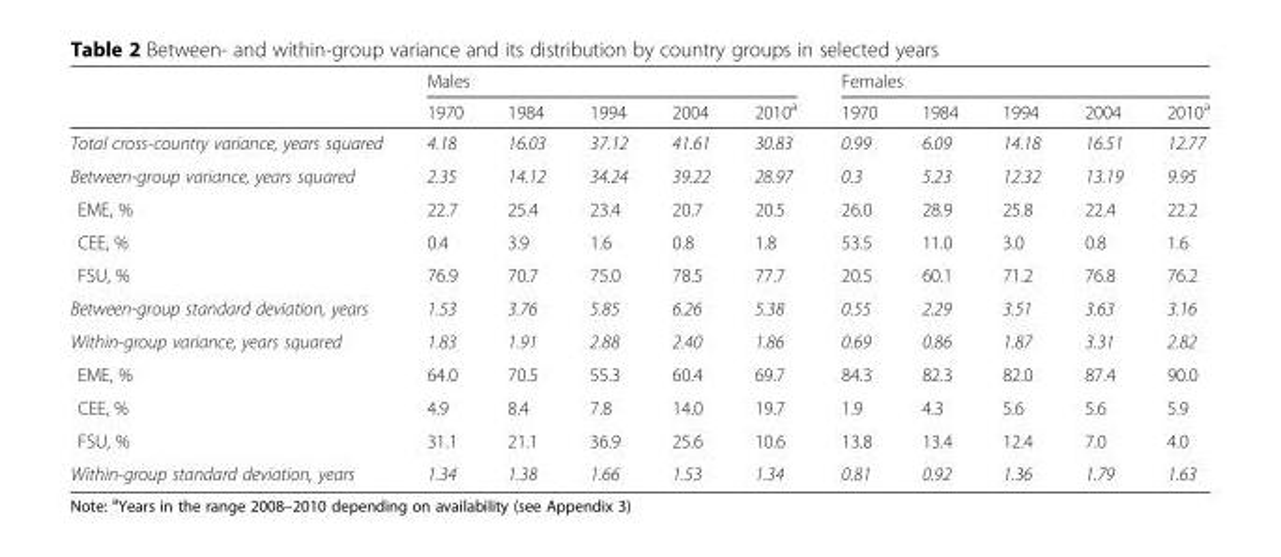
<table><thead><tr><td rowspan="2"></td><td colspan="5">Males</td><td colspan="5">Females</td></tr><tr><td>1970</td><td>1984</td><td>1994</td><td>2004</td><td>2010<sup>a</sup></td><td>1970</td><td>1984</td><td>1994</td><td>2004</td><td>2010<sup>a</sup></td></tr></thead><tbody><tr><td>Total cross-country variance, years squared</td><td>4.18</td><td>16.03</td><td>37.12</td><td>41.61</td><td>30.83</td><td>0.99</td><td>6.09</td><td>14.18</td><td>16.51</td><td>12.77</td></tr><tr><td>Between-group variance, years squared</td><td>2.35</td><td>14.12</td><td>34.24</td><td>39.22</td><td>28.97</td><td>0.3</td><td>5.23</td><td>12.32</td><td>13.19</td><td>9.95</td></tr><tr><td>EME, %</td><td>22.7</td><td>25.4</td><td>23.4</td><td>20.7</td><td>20.5</td><td>26.0</td><td>28.9</td><td>25.8</td><td>22.4</td><td>22.2</td></tr><tr><td>CEE, %</td><td>0.4</td><td>3.9</td><td>1.6</td><td>0.8</td><td>1.8</td><td>53.5</td><td>11.0</td><td>3.0</td><td>0.8</td><td>1.6</td></tr><tr><td>FSU, %</td><td>76.9</td><td>70.7</td><td>75.0</td><td>78.5</td><td>77.7</td><td>20.5</td><td>60.1</td><td>71.2</td><td>76.8</td><td>76.2</td></tr><tr><td>Between-group standard deviation, years</td><td>1.53</td><td>3.76</td><td>5.85</td><td>6.26</td><td>5.38</td><td>0.55</td><td>2.29</td><td>3.51</td><td>3.63</td><td>3.16</td></tr><tr><td>Within-group variance, years squared</td><td>1.83</td><td>1.91</td><td>2.88</td><td>2.40</td><td>1.86</td><td>0.69</td><td>0.86</td><td>1.87</td><td>3.31</td><td>2.82</td></tr><tr><td>EME, %</td><td>64.0</td><td>70.5</td><td>55.3</td><td>60.4</td><td>69.7</td><td>84.3</td><td>82.3</td><td>82.0</td><td>87.4</td><td>90.0</td></tr><tr><td>CEE, %</td><td>4.9</td><td>8.4</td><td>7.8</td><td>14.0</td><td>19.7</td><td>1.9</td><td>4.3</td><td>5.6</td><td>5.6</td><td>5.9</td></tr><tr><td>FSU, %</td><td>31.1</td><td>21.1</td><td>36.9</td><td>25.6</td><td>10.6</td><td>13.8</td><td>13.4</td><td>12.4</td><td>7.0</td><td>4.0</td></tr><tr><td>Within-group standard deviation, years</td><td>1.34</td><td>1.38</td><td>1.66</td><td>1.53</td><td>1.34</td><td>0.81</td><td>0.92</td><td>1.36</td><td>1.79</td><td>1.63</td></tr></tbody></table>